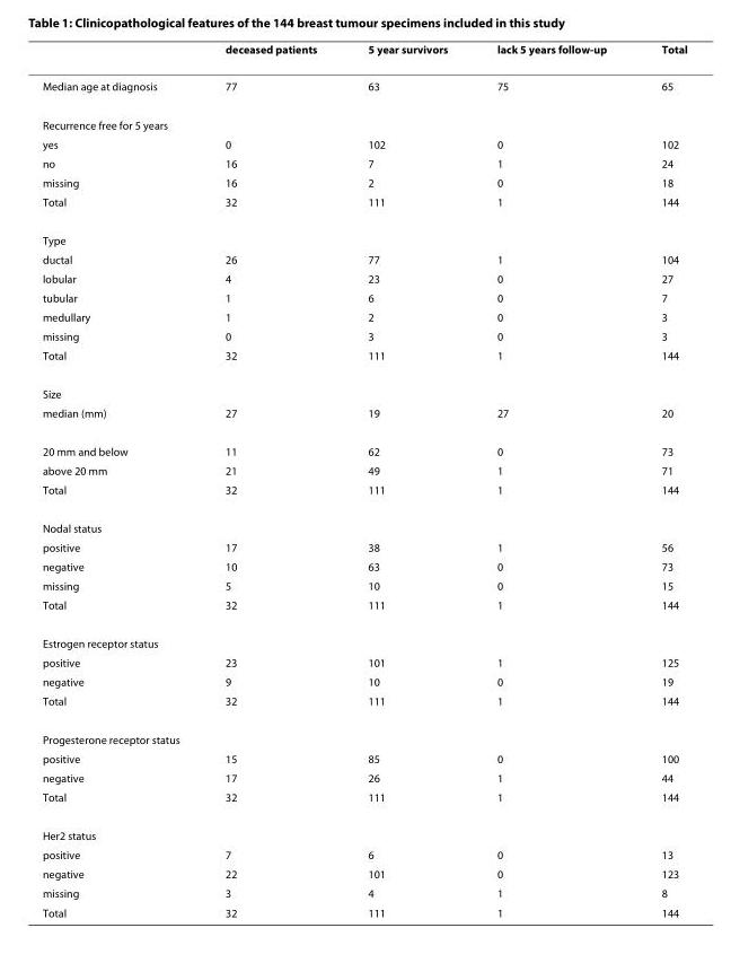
<table><thead><tr><td></td><td>deceased patients</td><td>5 year survivors</td><td>lack 5 years follow-up</td><td>Total</td></tr></thead><tbody><tr><td>Median age at diagnosis</td><td>77</td><td>63</td><td>75</td><td>65</td></tr><tr><td colspan="5">Recurrence free for 5 years</td></tr><tr><td>yes</td><td>0</td><td>102</td><td>0</td><td>102</td></tr><tr><td>no</td><td>16</td><td>7</td><td>1</td><td>24</td></tr><tr><td>missing</td><td>16</td><td>2</td><td>0</td><td>18</td></tr><tr><td>Total</td><td>32</td><td>111</td><td>1</td><td>144</td></tr><tr><td colspan="5">Type</td></tr><tr><td>ductal</td><td>26</td><td>77</td><td>1</td><td>104</td></tr><tr><td>lobular</td><td>4</td><td>23</td><td>0</td><td>27</td></tr><tr><td>tubular</td><td>1</td><td>6</td><td>0</td><td>7</td></tr><tr><td>medullary</td><td>1</td><td>2</td><td>0</td><td>3</td></tr><tr><td>missing</td><td>0</td><td>3</td><td>0</td><td>3</td></tr><tr><td>Total</td><td>32</td><td>111</td><td>1</td><td>144</td></tr><tr><td colspan="5">Size</td></tr><tr><td>median (mm)</td><td>27</td><td>19</td><td>27</td><td>20</td></tr><tr><td>20 mm and below</td><td>11</td><td>62</td><td>0</td><td>73</td></tr><tr><td>above 20 mm</td><td>21</td><td>49</td><td>1</td><td>71</td></tr><tr><td>Total</td><td>32</td><td>111</td><td>1</td><td>144</td></tr><tr><td colspan="5">Nodal status</td></tr><tr><td>positive</td><td>17</td><td>38</td><td>1</td><td>56</td></tr><tr><td>negative</td><td>10</td><td>63</td><td>0</td><td>73</td></tr><tr><td>missing</td><td>5</td><td>10</td><td>0</td><td>15</td></tr><tr><td>Total</td><td>32</td><td>111</td><td>1</td><td>144</td></tr><tr><td colspan="5">Estrogen receptor status</td></tr><tr><td>positive</td><td>23</td><td>101</td><td>1</td><td>125</td></tr><tr><td>negative</td><td>9</td><td>10</td><td>0</td><td>19</td></tr><tr><td>Total</td><td>32</td><td>111</td><td>1</td><td>144</td></tr><tr><td colspan="5">Progesterone receptor status</td></tr><tr><td>positive</td><td>15</td><td>85</td><td>0</td><td>100</td></tr><tr><td>negative</td><td>17</td><td>26</td><td>1</td><td>44</td></tr><tr><td>Total</td><td>32</td><td>111</td><td>1</td><td>144</td></tr><tr><td colspan="5">Her2 status</td></tr><tr><td>positive</td><td>7</td><td>6</td><td>0</td><td>13</td></tr><tr><td>negative</td><td>22</td><td>101</td><td>0</td><td>123</td></tr><tr><td>missing</td><td>3</td><td>4</td><td>1</td><td>8</td></tr><tr><td>Total</td><td>32</td><td>111</td><td>1</td><td>144</td></tr></tbody></table>